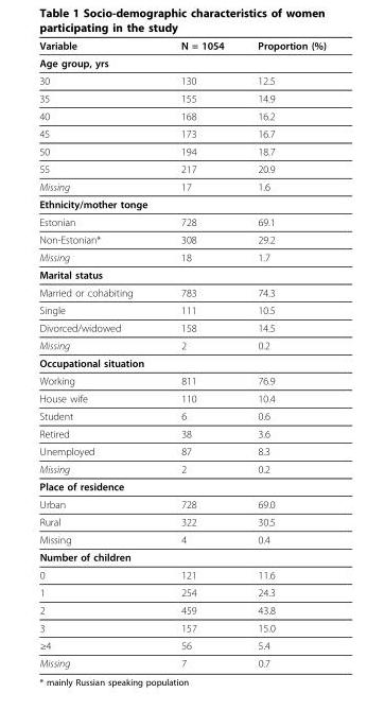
<table><thead><tr><td>Variable</td><td>N = 1054</td><td>Proportion (%)</td></tr></thead><tbody><tr><td colspan="3">Age group, yrs</td></tr><tr><td>30</td><td>130</td><td>12.5</td></tr><tr><td>35</td><td>155</td><td>14.9</td></tr><tr><td>40</td><td>168</td><td>16.2</td></tr><tr><td>45</td><td>173</td><td>16.7</td></tr><tr><td>50</td><td>194</td><td>18.7</td></tr><tr><td>55</td><td>217</td><td>20.9</td></tr><tr><td>Missing</td><td>17</td><td>1.6</td></tr><tr><td colspan="3">Ethnicity/mother tonge</td></tr><tr><td>Estonian</td><td>728</td><td>69.1</td></tr><tr><td>Non-Estonian*</td><td>308</td><td>29.2</td></tr><tr><td>Missing</td><td>18</td><td>1.7</td></tr><tr><td colspan="3">Marital status</td></tr><tr><td>Married or cohabiting</td><td>783</td><td>74.3</td></tr><tr><td>Single</td><td>111</td><td>10.5</td></tr><tr><td>Divorced/widowed</td><td>158</td><td>14.5</td></tr><tr><td>Missing</td><td>2</td><td>0.2</td></tr><tr><td colspan="3">Occupational situation</td></tr><tr><td>Working</td><td>811</td><td>76.9</td></tr><tr><td>House wife</td><td>110</td><td>10.4</td></tr><tr><td>Student</td><td>6</td><td>0.6</td></tr><tr><td>Retired</td><td>38</td><td>3.6</td></tr><tr><td>Unemployed</td><td>87</td><td>8.3</td></tr><tr><td>Missing</td><td>2</td><td>0.2</td></tr><tr><td colspan="3">Place of residence</td></tr><tr><td>Urban</td><td>728</td><td>69.0</td></tr><tr><td>Rural</td><td>322</td><td>30.5</td></tr><tr><td>Missing</td><td>4</td><td>0.4</td></tr><tr><td colspan="3">Number of children</td></tr><tr><td>0</td><td>121</td><td>11.6</td></tr><tr><td>1</td><td>254</td><td>24.3</td></tr><tr><td>2</td><td>459</td><td>43.8</td></tr><tr><td>3</td><td>157</td><td>15.0</td></tr><tr><td>≥4</td><td>56</td><td>5.4</td></tr><tr><td>Missing</td><td>7</td><td>0.7</td></tr></tbody></table>